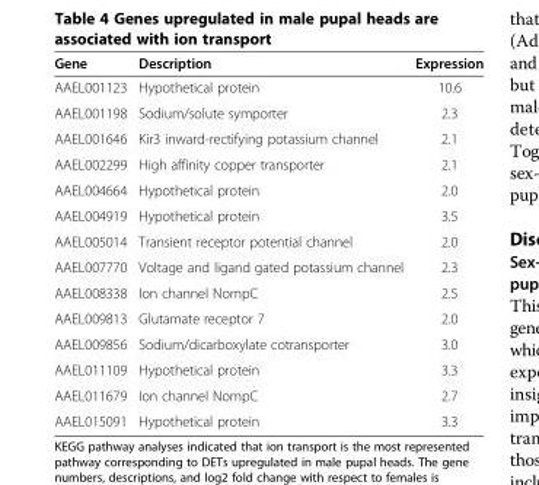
<table><thead><tr><td>Gene</td><td>Description</td><td>Expression</td></tr></thead><tbody><tr><td>AAEL001123</td><td>Hypothetical protein</td><td>10.6</td></tr><tr><td>AAEL001198</td><td>Sodium/solute symporter</td><td>2.3</td></tr><tr><td>AAEL001646</td><td>Kir3 inward-rectifying potassium channel</td><td>2.1</td></tr><tr><td>AAEL002299</td><td>High affinity copper transporter</td><td>2.1</td></tr><tr><td>AAEL004664</td><td>Hypothetical protein</td><td>2.0</td></tr><tr><td>AAEL004919</td><td>Hypothetical protein</td><td>3.5</td></tr><tr><td>AAEL005014</td><td>Transient receptor potential channel</td><td>2.0</td></tr><tr><td>AAEL007770</td><td>Voltage and ligand gated potassium channel</td><td>2.3</td></tr><tr><td>AAEL008338</td><td>Ion channel NompC</td><td>2.5</td></tr><tr><td>AAEL009813</td><td>Glutamate receptor 7</td><td>2.0</td></tr><tr><td>AAEL009856</td><td>Sodium/dicarboxylate cotransporter</td><td>3.0</td></tr><tr><td>AAEL011109</td><td>Hypothetical protein</td><td>3.3</td></tr><tr><td>AAEL011679</td><td>Ion channel NompC</td><td>2.7</td></tr><tr><td>AAEL015091</td><td>Hypothetical protein</td><td>3.3</td></tr></tbody></table>